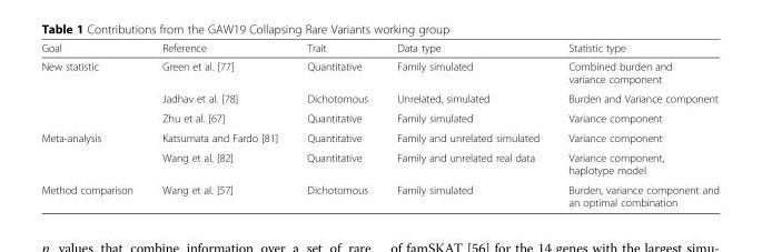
<table><thead><tr><td>Goal</td><td>Reference</td><td>Trait</td><td>Data type</td><td>Statistic type</td></tr></thead><tbody><tr><td rowspan="3">New statistic</td><td>Green et al. [77]</td><td>Quantitative</td><td>Family simulated</td><td>Combined burden and variance component</td></tr><tr><td>Jadhav et al. [78]</td><td>Dichotomous</td><td>Unrelated, simulated</td><td>Burden and Variance component</td></tr><tr><td>Zhu et al. [67]</td><td>Quantitative</td><td>Family simulated</td><td>Variance component</td></tr><tr><td rowspan="2">Meta-analysis</td><td>Katsumata and Fardo [81]</td><td>Quantitative</td><td>Family and unrelated simulated</td><td>Variance component</td></tr><tr><td>Wang et al. [82]</td><td>Quantitative</td><td>Family and unrelated real data</td><td>Variance component, haplotype model</td></tr><tr><td>Method comparison</td><td>Wang et al. [57]</td><td>Dichotomous</td><td>Family simulated</td><td>Burden, variance component and an optimal combination</td></tr></tbody></table>